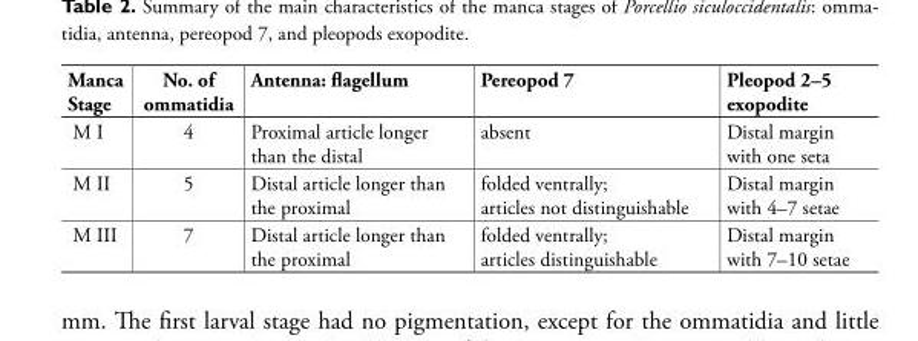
<table><thead><tr><td>Manca Stage</td><td>No. of ommatidia</td><td>Antenna: flagellum</td><td>Pereopod 7</td><td>Pleopod 2–5 exopodite</td></tr></thead><tbody><tr><td>M I</td><td>4</td><td>Proximal article longer than the distal</td><td>absent</td><td>Distal margin with one seta</td></tr><tr><td>M II</td><td>5</td><td>Distal article longer than the proximal</td><td>folded ventrally; articles not distinguishable</td><td>Distal margin with 4–7 setae</td></tr><tr><td>M III</td><td>7</td><td>Distal article longer than the proximal</td><td>folded ventrally; articles distinguishable</td><td>Distal margin with 7–10 setae</td></tr></tbody></table>